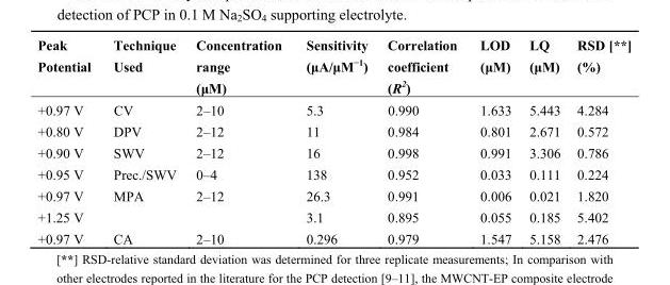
<table><thead><tr><td>Peak Potential</td><td>Technique Used</td><td>Concentration range (μM)</td><td>Sensitivity (μA/μM<sup>−1</sup>)</td><td>Correlation coefficient (R<sup>2</sup>)</td><td>LOD (μM)</td><td>LQ (μM)</td><td>RSD [**] (%)</td></tr></thead><tbody><tr><td>+0.97 V</td><td>CV</td><td>2–10</td><td>5.3</td><td>0.990</td><td>1.633</td><td>5.443</td><td>4.284</td></tr><tr><td>+0.80 V</td><td>DPV</td><td>2–12</td><td>11</td><td>0.984</td><td>0.801</td><td>2.671</td><td>0.572</td></tr><tr><td>+0.90 V</td><td>SWV</td><td>2–12</td><td>16</td><td>0.998</td><td>0.991</td><td>3.306</td><td>0.786</td></tr><tr><td>+0.95 V</td><td>Prec./SWV</td><td>0–4</td><td>138</td><td>0.952</td><td>0.033</td><td>0.111</td><td>0.224</td></tr><tr><td>+0.97 V</td><td rowspan="2">MPA</td><td rowspan="2">2–12</td><td>26.3</td><td>0.991</td><td>0.006</td><td>0.021</td><td>1.820</td></tr><tr><td>+1.25 V</td><td>3.1</td><td>0.895</td><td>0.055</td><td>0.185</td><td>5.402</td></tr><tr><td>+0.97 V</td><td>CA</td><td>2–10</td><td>0.296</td><td>0.979</td><td>1.547</td><td>5.158</td><td>2.476</td></tr></tbody></table>